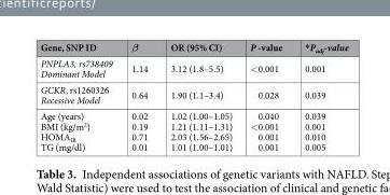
<table><thead><tr><td>Gene, SNP ID</td><td>β</td><td>OR (95% CI)</td><td>P -value</td><td>*P<sub>adj</sub>-value</td></tr></thead><tbody><tr><td>PNPLA3, rs738409 Dominant Model</td><td>1.14</td><td>3.12 (1.8–5.5)</td><td>&lt;0.001</td><td>0.001</td></tr><tr><td>GCKR, rs1260326 Recessive Model</td><td>0.64</td><td>1.90 (1.1–3.4)</td><td>0.028</td><td>0.039</td></tr><tr><td>Age (years) BMI (kg/m<sup>2</sup>) HOMA<sub>IR</sub> TG (mg/dl)</td><td>0.02 0.19 0.71 0.01</td><td>1.02 (1.00–1.05) 1.21 (1.11–1.31) 2.03 (1.56–2.65) 1.01 (1.00–1.01)</td><td>0.040 &lt;0.001 0.001 0.001</td><td>0.039 0.001 0.010 0.005</td></tr></tbody></table>